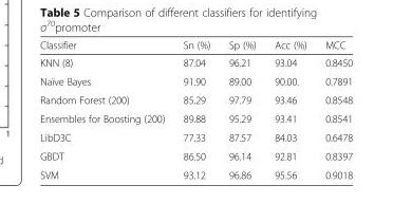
<table><thead><tr><td>Classifier</td><td>Sn (%)</td><td>Sp (%)</td><td>Acc (%)</td><td>MCC</td></tr></thead><tbody><tr><td>KNN (8)</td><td>87.04</td><td>96.21</td><td>93.04</td><td>0.8450</td></tr><tr><td>Naïve Bayes</td><td>91.90</td><td>89.00</td><td>90.00.</td><td>0.7891</td></tr><tr><td>Random Forest (200)</td><td>85.29</td><td>97.79</td><td>93.46</td><td>0.8548</td></tr><tr><td>Ensembles for Boosting (200)</td><td>89.88</td><td>95.29</td><td>93.41</td><td>0.8541</td></tr><tr><td>LibD3C</td><td>77.33</td><td>87.57</td><td>84.03</td><td>0.6478</td></tr><tr><td>GBDT</td><td>86.50</td><td>96.14</td><td>92.81</td><td>0.8397</td></tr><tr><td>SVM</td><td>93.12</td><td>96.86</td><td>95.56</td><td>0.9018</td></tr></tbody></table>